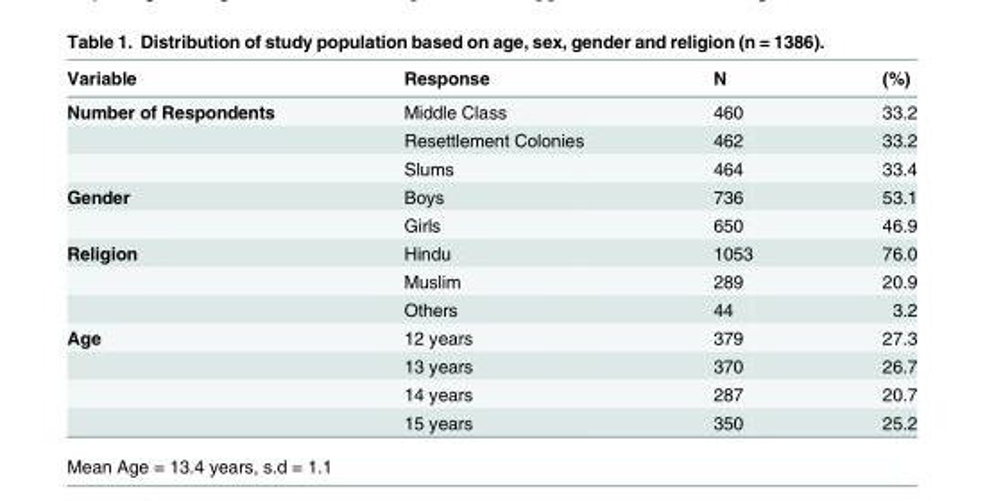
<table><thead><tr><td>Variable</td><td>Response</td><td>N</td><td>(%)</td></tr></thead><tbody><tr><td rowspan="3">Number of Respondents</td><td>Middle Class</td><td>460</td><td>33.2</td></tr><tr><td>Resettlement Colonies</td><td>462</td><td>33.2</td></tr><tr><td>Slums</td><td>464</td><td>33.4</td></tr><tr><td rowspan="2">Gender</td><td>Boys</td><td>736</td><td>53.1</td></tr><tr><td>Girls</td><td>650</td><td>46.9</td></tr><tr><td rowspan="3">Religion</td><td>Hindu</td><td>1053</td><td>76.0</td></tr><tr><td>Muslim</td><td>289</td><td>20.9</td></tr><tr><td>Others</td><td>44</td><td>3.2</td></tr><tr><td rowspan="4">Age</td><td>12 years</td><td>379</td><td>27.3</td></tr><tr><td>13 years</td><td>370</td><td>26.7</td></tr><tr><td>14 years</td><td>287</td><td>20.7</td></tr><tr><td>15 years</td><td>350</td><td>25.2</td></tr></tbody></table>